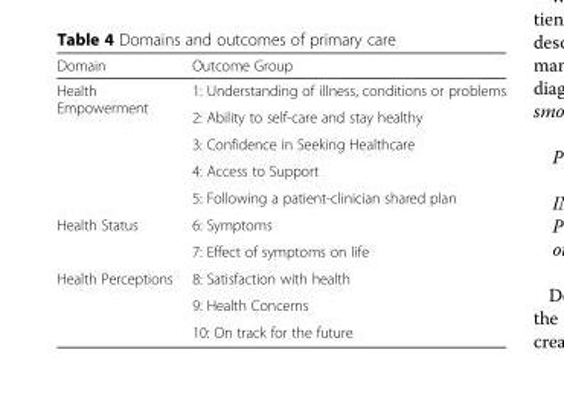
<table><thead><tr><td>Domain</td><td>Outcome Group</td></tr></thead><tbody><tr><td rowspan="5">Health Empowerment</td><td>1: Understanding of illness, conditions or problems</td></tr><tr><td>2: Ability to self-care and stay healthy</td></tr><tr><td>3: Confidence in Seeking Healthcare</td></tr><tr><td>4: Access to Support</td></tr><tr><td>5: Following a patient-clinician shared plan</td></tr><tr><td rowspan="2">Health Status</td><td>6: Symptoms</td></tr><tr><td>7: Effect of symptoms on life</td></tr><tr><td rowspan="3">Health Perceptions</td><td>8: Satisfaction with health</td></tr><tr><td>9: Health Concerns</td></tr><tr><td>10: On track for the future</td></tr></tbody></table>